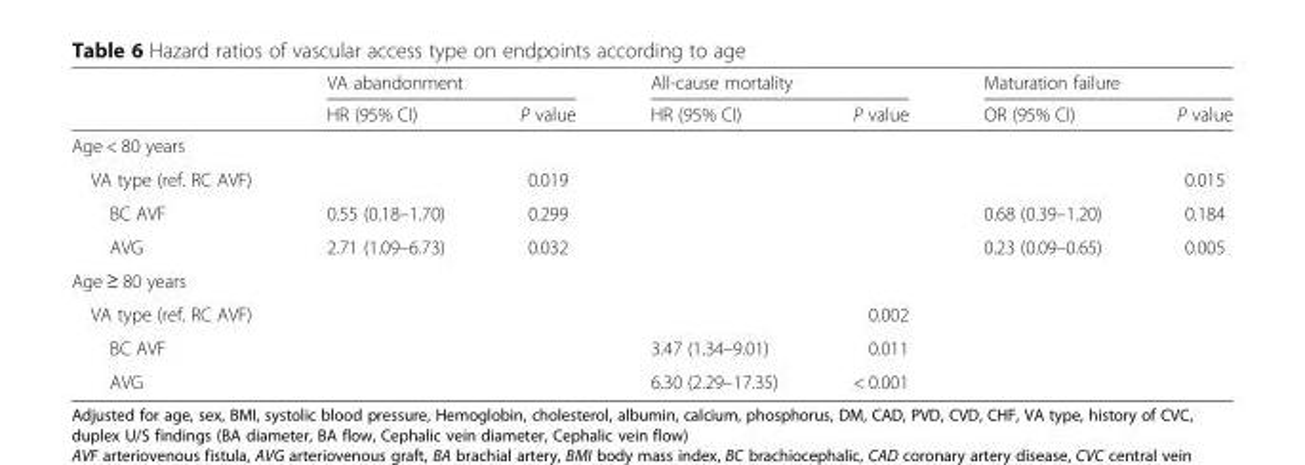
<table><thead><tr><td rowspan="2"></td><td colspan="2">VA abandonment</td><td colspan="2">All-cause mortality</td><td colspan="2">Maturation failure</td></tr><tr><td>HR (95% CI)</td><td>P value</td><td>HR (95% CI)</td><td>P value</td><td>OR (95% CI)</td><td>P value</td></tr></thead><tbody><tr><td colspan="7">Age &lt; 80 years</td></tr><tr><td>VA type (ref. RC AVF)</td><td></td><td>0.019</td><td></td><td></td><td></td><td>0.015</td></tr><tr><td>BC AVF</td><td>0.55 (0.18–1.70)</td><td>0.299</td><td></td><td></td><td>0.68 (0.39–1.20)</td><td>0.184</td></tr><tr><td>AVG</td><td>2.71 (1.09–6.73)</td><td>0.032</td><td></td><td></td><td>0.23 (0.09–0.65)</td><td>0.005</td></tr><tr><td colspan="7">Age ≥ 80 years</td></tr><tr><td>VA type (ref. RC AVF)</td><td></td><td></td><td></td><td>0.002</td><td></td><td></td></tr><tr><td>BC AVF</td><td></td><td></td><td>3.47 (1.34–9.01)</td><td>0.011</td><td></td><td></td></tr><tr><td>AVG</td><td></td><td></td><td>6.30 (2.29–17.35)</td><td>&lt; 0.001</td><td></td><td></td></tr></tbody></table>